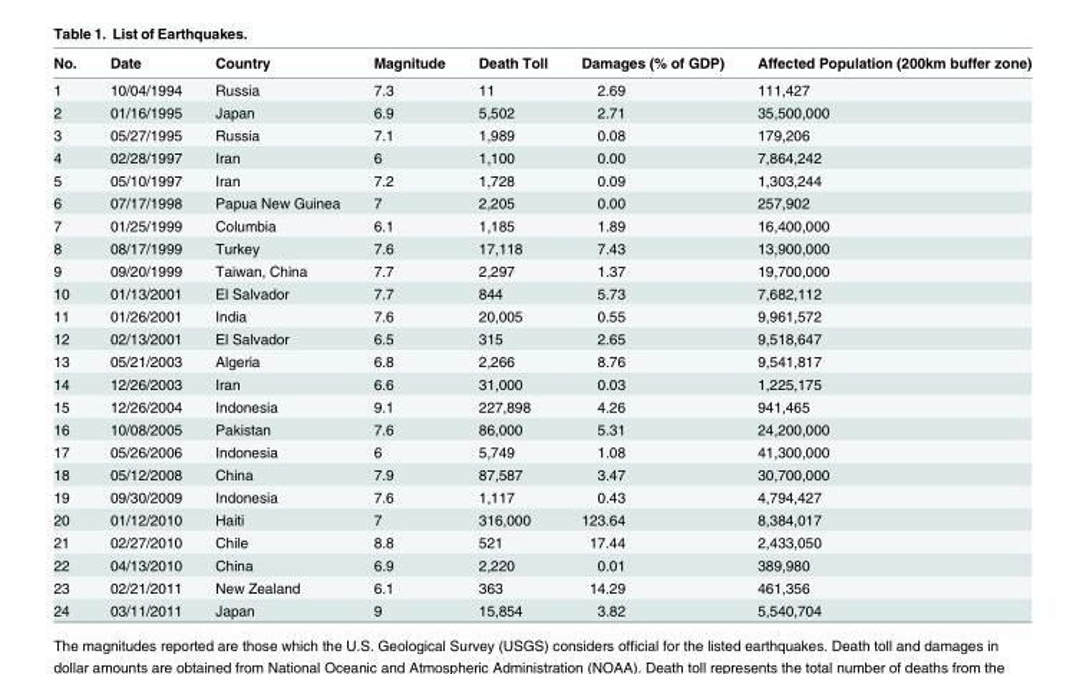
<table><thead><tr><td>No.</td><td>Date</td><td>Country</td><td>Magnitude</td><td>Death Toll</td><td>Damages (% of GDP)</td><td>Affected Population (200km buffer zone)</td></tr></thead><tbody><tr><td>1</td><td>10/04/1994</td><td>Russia</td><td>7.3</td><td>11</td><td>2.69</td><td>111,427</td></tr><tr><td>2</td><td>01/16/1995</td><td>Japan</td><td>6.9</td><td>5,502</td><td>2.71</td><td>35,500,000</td></tr><tr><td>3</td><td>05/27/1995</td><td>Russia</td><td>7.1</td><td>1,989</td><td>0.08</td><td>179,206</td></tr><tr><td>4</td><td>02/28/1997</td><td>Iran</td><td>6</td><td>1,100</td><td>0.00</td><td>7,864,242</td></tr><tr><td>5</td><td>05/10/1997</td><td>Iran</td><td>7.2</td><td>1,728</td><td>0.09</td><td>1,303,244</td></tr><tr><td>6</td><td>07/17/1998</td><td>Papua New Guinea</td><td>7</td><td>2,205</td><td>0.00</td><td>257,902</td></tr><tr><td>7</td><td>01/25/1999</td><td>Columbia</td><td>6.1</td><td>1,185</td><td>1.89</td><td>16,400,000</td></tr><tr><td>8</td><td>08/17/1999</td><td>Turkey</td><td>7.6</td><td>17,118</td><td>7.43</td><td>13,900,000</td></tr><tr><td>9</td><td>09/20/1999</td><td>Taiwan, China</td><td>7.7</td><td>2,297</td><td>1.37</td><td>19,700,000</td></tr><tr><td>10</td><td>01/13/2001</td><td>El Salvador</td><td>7.7</td><td>844</td><td>5.73</td><td>7,682,112</td></tr><tr><td>11</td><td>01/26/2001</td><td>India</td><td>7.6</td><td>20,005</td><td>0.55</td><td>9,961,572</td></tr><tr><td>12</td><td>02/13/2001</td><td>El Salvador</td><td>6.5</td><td>315</td><td>2.65</td><td>9,518,647</td></tr><tr><td>13</td><td>05/21/2003</td><td>Algeria</td><td>6.8</td><td>2,266</td><td>8.76</td><td>9,541,817</td></tr><tr><td>14</td><td>12/26/2003</td><td>Iran</td><td>6.6</td><td>31,000</td><td>0.03</td><td>1,225,175</td></tr><tr><td>15</td><td>12/26/2004</td><td>Indonesia</td><td>9.1</td><td>227,898</td><td>4.26</td><td>941,465</td></tr><tr><td>16</td><td>10/08/2005</td><td>Pakistan</td><td>7.6</td><td>86,000</td><td>5.31</td><td>24,200,000</td></tr><tr><td>17</td><td>05/26/2006</td><td>Indonesia</td><td>6</td><td>5,749</td><td>1.08</td><td>41,300,000</td></tr><tr><td>18</td><td>05/12/2008</td><td>China</td><td>7.9</td><td>87,587</td><td>3.47</td><td>30,700,000</td></tr><tr><td>19</td><td>09/30/2009</td><td>Indonesia</td><td>7.6</td><td>1,117</td><td>0.43</td><td>4,794,427</td></tr><tr><td>20</td><td>01/12/2010</td><td>Haiti</td><td>7</td><td>316,000</td><td>123.64</td><td>8,384,017</td></tr><tr><td>21</td><td>02/27/2010</td><td>Chile</td><td>8.8</td><td>521</td><td>17.44</td><td>2,433,050</td></tr><tr><td>22</td><td>04/13/2010</td><td>China</td><td>6.9</td><td>2,220</td><td>0.01</td><td>389,980</td></tr><tr><td>23</td><td>02/21/2011</td><td>New Zealand</td><td>6.1</td><td>363</td><td>14.29</td><td>461,356</td></tr><tr><td>24</td><td>03/11/2011</td><td>Japan</td><td>9</td><td>15,854</td><td>3.82</td><td>5,540,704</td></tr></tbody></table>